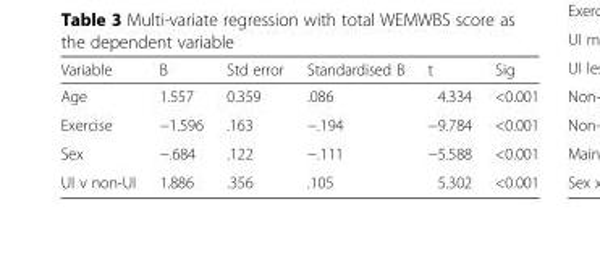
<table><thead><tr><td>Variable</td><td>B</td><td>Std error</td><td>Standardised B</td><td>t</td><td>Sig</td></tr></thead><tbody><tr><td>Age</td><td>1.557</td><td>0.359</td><td>.086</td><td>4.334</td><td>&lt;0.001</td></tr><tr><td>Exercise</td><td>−1.596</td><td>.163</td><td>−.194</td><td>−9.784</td><td>&lt;0.001</td></tr><tr><td>Sex</td><td>−.684</td><td>.122</td><td>−.111</td><td>−5.588</td><td>&lt;0.001</td></tr><tr><td>UI v non-UI</td><td>1.886</td><td>.356</td><td>.105</td><td>5.302</td><td>&lt;0.001</td></tr></tbody></table>